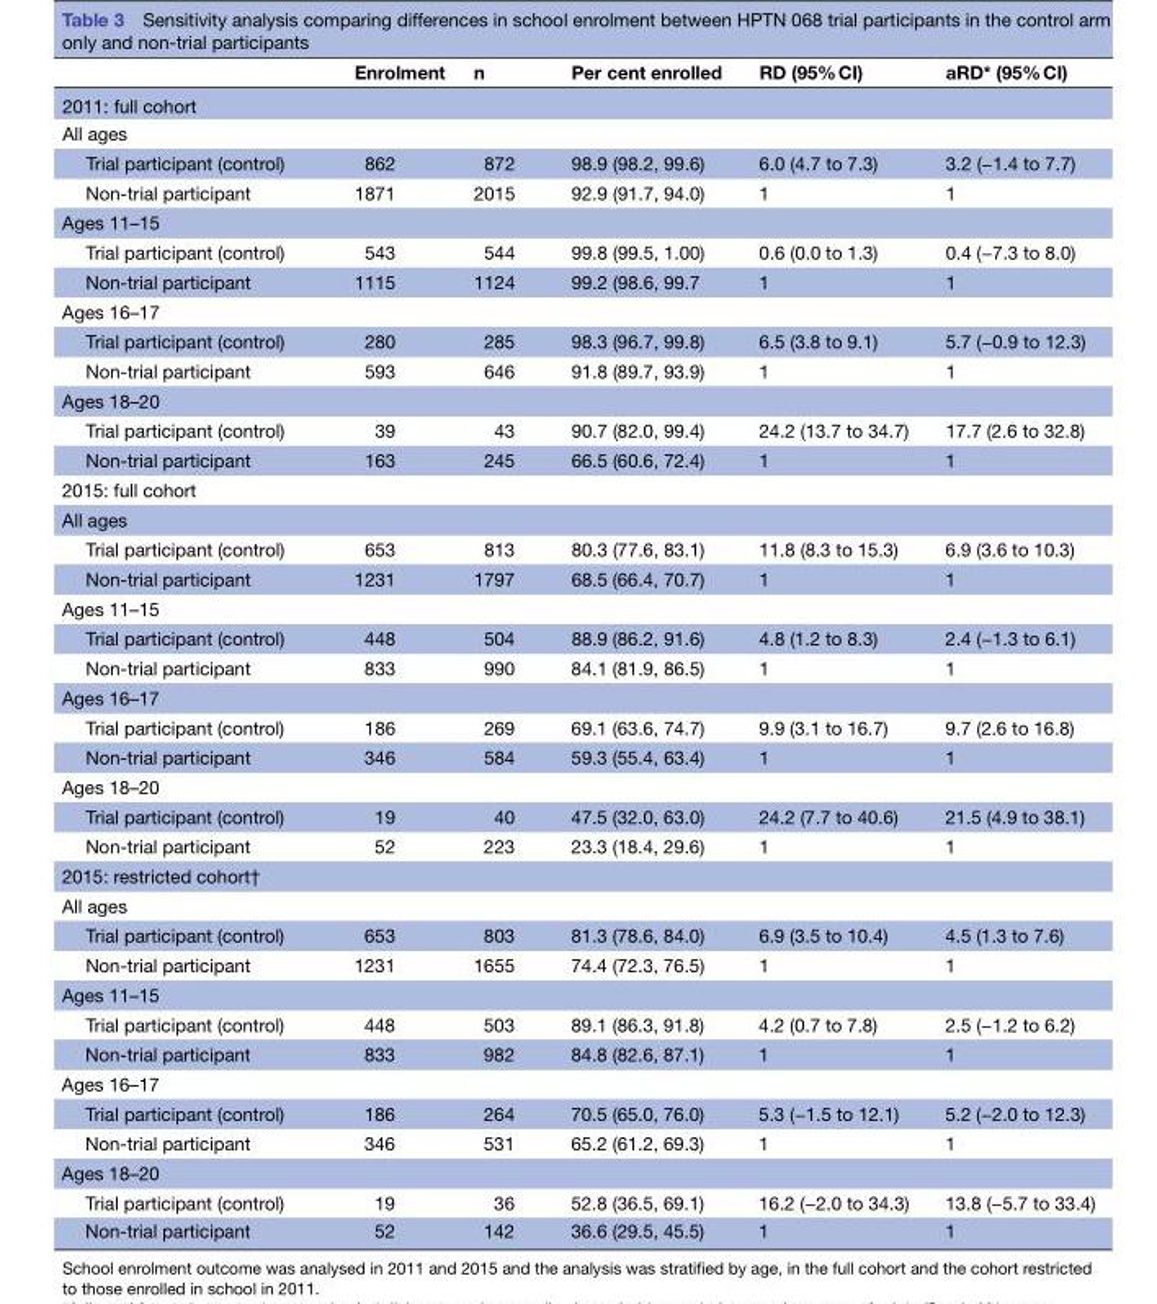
<table><thead><tr><td></td><td>Enrolment</td><td>n</td><td>Per cent enrolled</td><td>RD (95% CI)</td><td>aRD* (95% CI)</td></tr></thead><tbody><tr><td colspan="6">2011: full cohort</td></tr><tr><td colspan="6">All ages</td></tr><tr><td>Trial participant (control)</td><td>862</td><td>872</td><td>98.9 (98.2, 99.6)</td><td>6.0 (4.7 to 7.3)</td><td>3.2 (−1.4 to 7.7)</td></tr><tr><td>Non-trial participant</td><td>1871</td><td>2015</td><td>92.9 (91.7, 94.0)</td><td>1</td><td>1</td></tr><tr><td colspan="6">Ages 11–15</td></tr><tr><td>Trial participant (control)</td><td>543</td><td>544</td><td>99.8 (99.5, 1.00)</td><td>0.6 (0.0 to 1.3)</td><td>0.4 (−7.3 to 8.0)</td></tr><tr><td>Non-trial participant</td><td>1115</td><td>1124</td><td>99.2 (98.6, 99.7</td><td>1</td><td>1</td></tr><tr><td colspan="6">Ages 16–17</td></tr><tr><td>Trial participant (control)</td><td>280</td><td>285</td><td>98.3 (96.7, 99.8)</td><td>6.5 (3.8 to 9.1)</td><td>5.7 (−0.9 to 12.3)</td></tr><tr><td>Non-trial participant</td><td>593</td><td>646</td><td>91.8 (89.7, 93.9)</td><td>1</td><td>1</td></tr><tr><td colspan="6">Ages 18–20</td></tr><tr><td>Trial participant (control)</td><td>39</td><td>43</td><td>90.7 (82.0, 99.4)</td><td>24.2 (13.7 to 34.7)</td><td>17.7 (2.6 to 32.8)</td></tr><tr><td>Non-trial participant</td><td>163</td><td>245</td><td>66.5 (60.6, 72.4)</td><td>1</td><td>1</td></tr><tr><td colspan="6">2015: full cohort</td></tr><tr><td colspan="6">All ages</td></tr><tr><td>Trial participant (control)</td><td>653</td><td>813</td><td>80.3 (77.6, 83.1)</td><td>11.8 (8.3 to 15.3)</td><td>6.9 (3.6 to 10.3)</td></tr><tr><td>Non-trial participant</td><td>1231</td><td>1797</td><td>68.5 (66.4, 70.7)</td><td>1</td><td>1</td></tr><tr><td colspan="6">Ages 11–15</td></tr><tr><td>Trial participant (control)</td><td>448</td><td>504</td><td>88.9 (86.2, 91.6)</td><td>4.8 (1.2 to 8.3)</td><td>2.4 (−1.3 to 6.1)</td></tr><tr><td>Non-trial participant</td><td>833</td><td>990</td><td>84.1 (81.9, 86.5)</td><td>1</td><td>1</td></tr><tr><td colspan="6">Ages 16–17</td></tr><tr><td>Trial participant (control)</td><td>186</td><td>269</td><td>69.1 (63.6, 74.7)</td><td>9.9 (3.1 to 16.7)</td><td>9.7 (2.6 to 16.8)</td></tr><tr><td>Non-trial participant</td><td>346</td><td>584</td><td>59.3 (55.4, 63.4)</td><td>1</td><td>1</td></tr><tr><td colspan="6">Ages 18–20</td></tr><tr><td>Trial participant (control)</td><td>19</td><td>40</td><td>47.5 (32.0, 63.0)</td><td>24.2 (7.7 to 40.6)</td><td>21.5 (4.9 to 38.1)</td></tr><tr><td>Non-trial participant</td><td>52</td><td>223</td><td>23.3 (18.4, 29.6)</td><td>1</td><td>1</td></tr><tr><td colspan="6">2015: restricted cohort†</td></tr><tr><td colspan="6">All ages</td></tr><tr><td>Trial participant (control)</td><td>653</td><td>803</td><td>81.3 (78.6, 84.0)</td><td>6.9 (3.5 to 10.4)</td><td>4.5 (1.3 to 7.6)</td></tr><tr><td>Non-trial participant</td><td>1231</td><td>1655</td><td>74.4 (72.3, 76.5)</td><td>1</td><td>1</td></tr><tr><td colspan="6">Ages 11–15</td></tr><tr><td>Trial participant (control)</td><td>448</td><td>503</td><td>89.1 (86.3, 91.8)</td><td>4.2 (0.7 to 7.8)</td><td>2.5 (−1.2 to 6.2)</td></tr><tr><td>Non-trial participant</td><td>833</td><td>982</td><td>84.8 (82.6, 87.1)</td><td>1</td><td>1</td></tr><tr><td colspan="6">Ages 16–17</td></tr><tr><td>Trial participant (control)</td><td>186</td><td>264</td><td>70.5 (65.0, 76.0)</td><td>5.3 (−1.5 to 12.1)</td><td>5.2 (−2.0 to 12.3)</td></tr><tr><td>Non-trial participant</td><td>346</td><td>531</td><td>65.2 (61.2, 69.3)</td><td>1</td><td>1</td></tr><tr><td colspan="6">Ages 18–20</td></tr><tr><td>Trial participant (control)</td><td>19</td><td>36</td><td>52.8 (36.5, 69.1)</td><td>16.2 (−2.0 to 34.3)</td><td>13.8 (−5.7 to 33.4)</td></tr><tr><td>Non-trial participant</td><td>52</td><td>142</td><td>36.6 (29.5, 45.5)</td><td>1</td><td>1</td></tr></tbody></table>